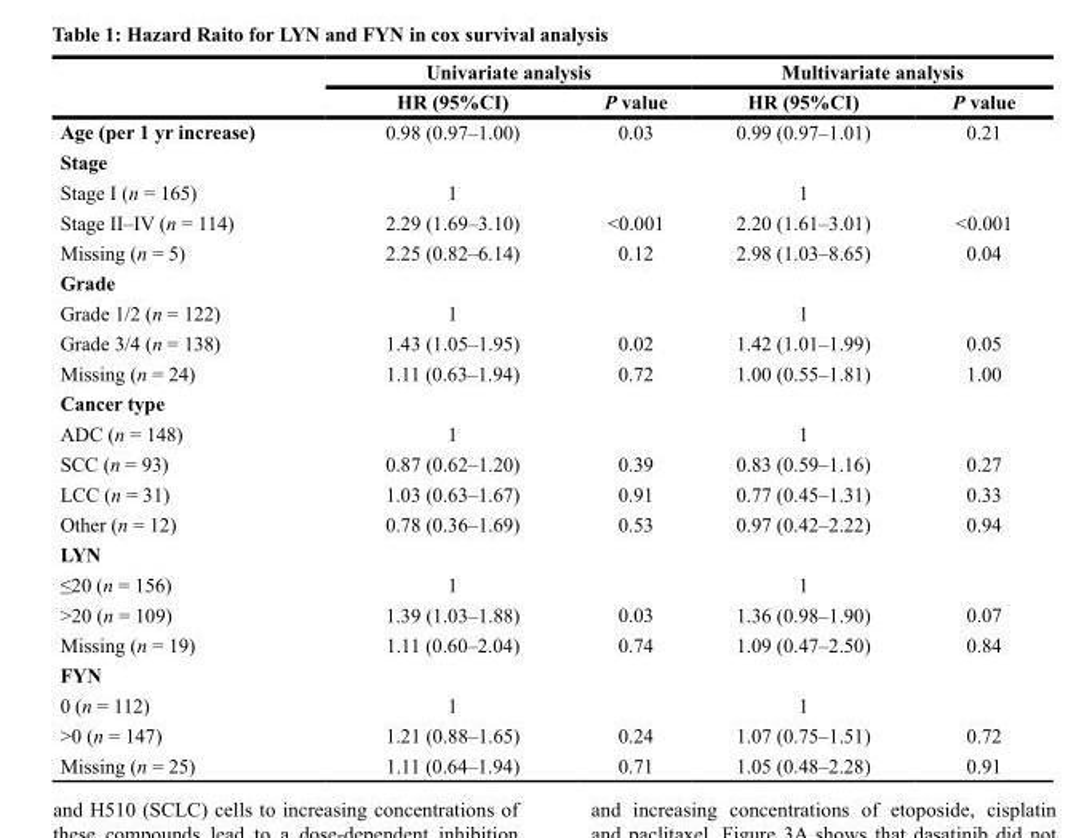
<table><thead><tr><td rowspan="2"></td><td colspan="2">Univariate analysis</td><td colspan="2">Multivariate analysis</td></tr><tr><td>HR (95%CI)</td><td>P value</td><td>HR (95%CI)</td><td>P value</td></tr></thead><tbody><tr><td>Age (per 1 yr increase)</td><td>0.98 (0.97–1.00)</td><td>0.03</td><td>0.99 (0.97–1.01)</td><td>0.21</td></tr><tr><td colspan="5">Stage</td></tr><tr><td>Stage I (n = 165)</td><td>1</td><td></td><td>1</td><td></td></tr><tr><td>Stage II–IV (n = 114)</td><td>2.29 (1.69–3.10)</td><td>&lt;0.001</td><td>2.20 (1.61–3.01)</td><td>&lt;0.001</td></tr><tr><td>Missing (n = 5)</td><td>2.25 (0.82–6.14)</td><td>0.12</td><td>2.98 (1.03–8.65)</td><td>0.04</td></tr><tr><td colspan="5">Grade</td></tr><tr><td>Grade 1/2 (n = 122)</td><td>1</td><td></td><td>1</td><td></td></tr><tr><td>Grade 3/4 (n = 138)</td><td>1.43 (1.05–1.95)</td><td>0.02</td><td>1.42 (1.01–1.99)</td><td>0.05</td></tr><tr><td>Missing (n = 24)</td><td>1.11 (0.63–1.94)</td><td>0.72</td><td>1.00 (0.55–1.81)</td><td>1.00</td></tr><tr><td colspan="5">Cancer type</td></tr><tr><td>ADC (n = 148)</td><td>1</td><td></td><td>1</td><td></td></tr><tr><td>SCC (n = 93)</td><td>0.87 (0.62–1.20)</td><td>0.39</td><td>0.83 (0.59–1.16)</td><td>0.27</td></tr><tr><td>LCC (n = 31)</td><td>1.03 (0.63–1.67)</td><td>0.91</td><td>0.77 (0.45–1.31)</td><td>0.33</td></tr><tr><td>Other (n = 12)</td><td>0.78 (0.36–1.69)</td><td>0.53</td><td>0.97 (0.42–2.22)</td><td>0.94</td></tr><tr><td colspan="5">LYN</td></tr><tr><td>≤20 (n = 156)</td><td>1</td><td></td><td>1</td><td></td></tr><tr><td>&gt;20 (n = 109)</td><td>1.39 (1.03–1.88)</td><td>0.03</td><td>1.36 (0.98–1.90)</td><td>0.07</td></tr><tr><td>Missing (n = 19)</td><td>1.11 (0.60–2.04)</td><td>0.74</td><td>1.09 (0.47–2.50)</td><td>0.84</td></tr><tr><td colspan="5">FYN</td></tr><tr><td>0 (n = 112)</td><td>1</td><td></td><td>1</td><td></td></tr><tr><td>&gt;0 (n = 147)</td><td>1.21 (0.88–1.65)</td><td>0.24</td><td>1.07 (0.75–1.51)</td><td>0.72</td></tr><tr><td>Missing (n = 25)</td><td>1.11 (0.64–1.94)</td><td>0.71</td><td>1.05 (0.48–2.28)</td><td>0.91</td></tr></tbody></table>